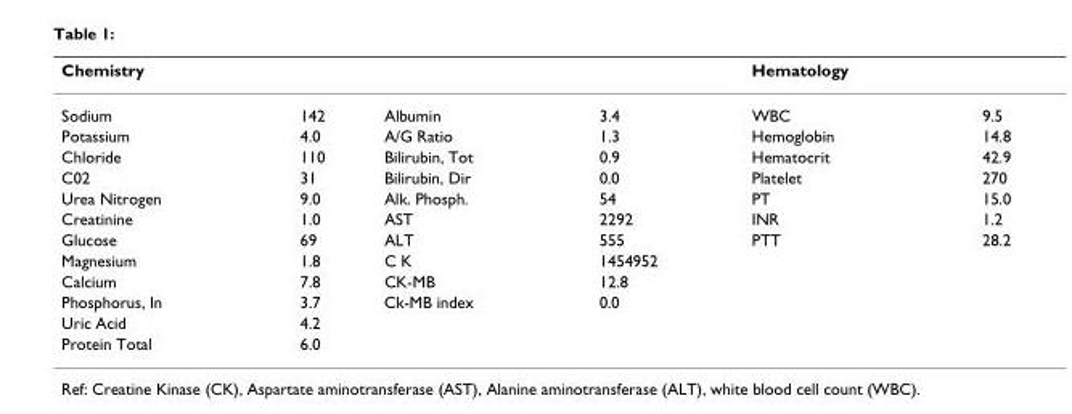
<table><thead><tr><td>Chemistry</td><td></td><td></td><td></td><td>Hematology</td><td></td></tr></thead><tbody><tr><td>Sodium</td><td>142</td><td>Albumin</td><td>3.4</td><td>WBC</td><td>9.5</td></tr><tr><td>Potassium</td><td>4.0</td><td>A/G Ratio</td><td>1.3</td><td>Hemoglobin</td><td>14.8</td></tr><tr><td>Chloride</td><td>110</td><td>Bilirubin, Tot</td><td>0.9</td><td>Hematocrit</td><td>42.9</td></tr><tr><td>C02</td><td>31</td><td>Bilirubin, Dir</td><td>0.0</td><td>Platelet</td><td>270</td></tr><tr><td>Urea Nitrogen</td><td>9.0</td><td>Alk. Phosph.</td><td>54</td><td>PT</td><td>15.0</td></tr><tr><td>Creatinine</td><td>1.0</td><td>AST</td><td>2292</td><td>INR</td><td>1.2</td></tr><tr><td>Glucose</td><td>69</td><td>ALT</td><td>555</td><td>PTT</td><td>28.2</td></tr><tr><td>Magnesium</td><td>1.8</td><td>C K</td><td>1454952</td><td></td><td></td></tr><tr><td>Calcium</td><td>7.8</td><td>CK-MB</td><td>12.8</td><td></td><td></td></tr><tr><td>Phosphorus, In</td><td>3.7</td><td>Ck-MB index</td><td>0.0</td><td></td><td></td></tr><tr><td>Uric Acid</td><td>4.2</td><td></td><td></td><td></td><td></td></tr><tr><td>Protein Total</td><td>6.0</td><td></td><td></td><td></td><td></td></tr></tbody></table>